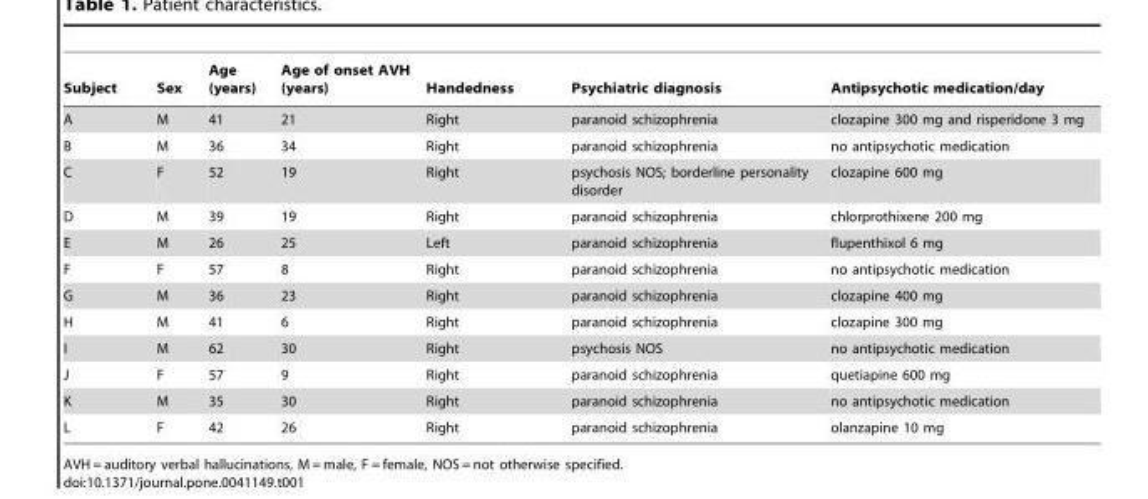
<table><thead><tr><td>Subject</td><td>Sex</td><td>Age (years)</td><td>Age of onset AVH (years)</td><td>Handedness</td><td>Psychiatric diagnosis</td><td>Antipsychotic medication/day</td></tr></thead><tbody><tr><td>A</td><td>M</td><td>41</td><td>21</td><td>Right</td><td>paranoid schizophrenia</td><td>clozapine 300 mg and risperidone 3 mg</td></tr><tr><td>B</td><td>M</td><td>36</td><td>34</td><td>Right</td><td>paranoid schizophrenia</td><td>no antipsychotic medication</td></tr><tr><td>C</td><td>F</td><td>52</td><td>19</td><td>Right</td><td>psychosis NOS; borderline personality disorder</td><td>clozapine 600 mg</td></tr><tr><td>D</td><td>M</td><td>39</td><td>19</td><td>Right</td><td>paranoid schizophrenia</td><td>chlorprothixene 200 mg</td></tr><tr><td>E</td><td>M</td><td>26</td><td>25</td><td>Left</td><td>paranoid schizophrenia</td><td>flupenthixol 6 mg</td></tr><tr><td>F</td><td>F</td><td>57</td><td>8</td><td>Right</td><td>paranoid schizophrenia</td><td>no antipsychotic medication</td></tr><tr><td>G</td><td>M</td><td>36</td><td>23</td><td>Right</td><td>paranoid schizophrenia</td><td>clozapine 400 mg</td></tr><tr><td>H</td><td>M</td><td>41</td><td>6</td><td>Right</td><td>paranoid schizophrenia</td><td>clozapine 300 mg</td></tr><tr><td>I</td><td>M</td><td>62</td><td>30</td><td>Right</td><td>psychosis NOS</td><td>no antipsychotic medication</td></tr><tr><td>J</td><td>F</td><td>57</td><td>9</td><td>Right</td><td>paranoid schizophrenia</td><td>quetiapine 600 mg</td></tr><tr><td>K</td><td>M</td><td>35</td><td>30</td><td>Right</td><td>paranoid schizophrenia</td><td>no antipsychotic medication</td></tr><tr><td>L</td><td>F</td><td>42</td><td>26</td><td>Right</td><td>paranoid schizophrenia</td><td>olanzapine 10 mg</td></tr></tbody></table>